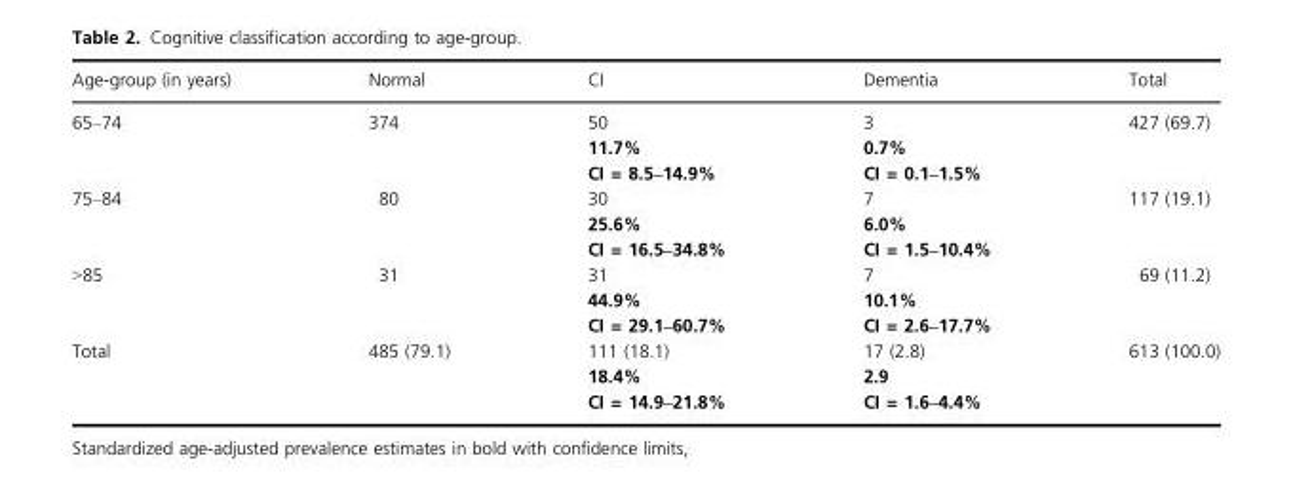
<table><thead><tr><td>Age-group (in years)</td><td>Normal</td><td>CI</td><td>Dementia</td><td>Total</td></tr></thead><tbody><tr><td rowspan="3">65–74</td><td rowspan="3">374</td><td>50</td><td>3</td><td rowspan="3">427 (69.7)</td></tr><tr><td>11.7%</td><td>0.7%</td></tr><tr><td>CI = 8.5–14.9%</td><td>CI = 0.1–1.5%</td></tr><tr><td rowspan="3">75–84</td><td rowspan="3">80</td><td>30</td><td>7</td><td rowspan="3">117 (19.1)</td></tr><tr><td>25.6%</td><td>6.0%</td></tr><tr><td>CI = 16.5–34.8%</td><td>CI = 1.5–10.4%</td></tr><tr><td rowspan="3">&gt;85</td><td rowspan="3">31</td><td>31</td><td>7</td><td rowspan="3">69 (11.2)</td></tr><tr><td>44.9%</td><td>10.1%</td></tr><tr><td>CI = 29.1–60.7%</td><td>CI = 2.6–17.7%</td></tr><tr><td rowspan="3">Total</td><td rowspan="3">485 (79.1)</td><td>111 (18.1)</td><td>17 (2.8)</td><td rowspan="3">613 (100.0)</td></tr><tr><td>18.4%</td><td>2.9</td></tr><tr><td>CI = 14.9–21.8%</td><td>CI = 1.6–4.4%</td></tr></tbody></table>